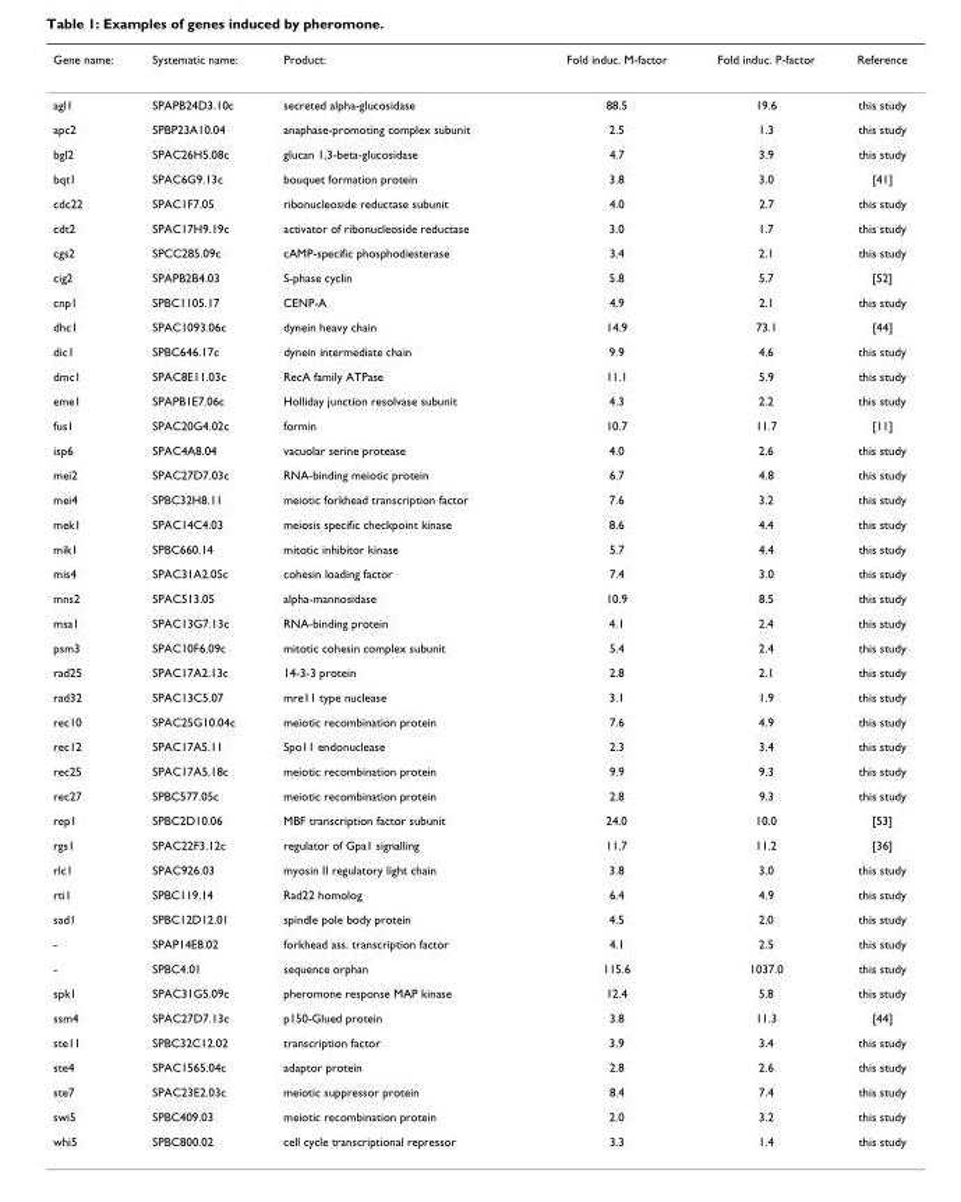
<table><thead><tr><td>Gene name:</td><td>Systematic name:</td><td>Product:</td><td>Fold induc. M-factor</td><td>Fold induc. P-factor</td><td>Reference</td></tr></thead><tbody><tr><td>agl1</td><td>SPAPB24D3.10c</td><td>secreted alpha-glucosidase</td><td>88.5</td><td>19.6</td><td>this study</td></tr><tr><td>apc2</td><td>SPBP23A10.04</td><td>anaphase-promoting complex subunit</td><td>2.5</td><td>1.3</td><td>this study</td></tr><tr><td>bgl2</td><td>SPAC26H5.08c</td><td>glucan 1,3-beta-glucosidase</td><td>4.7</td><td>3.9</td><td>this study</td></tr><tr><td>bqt1</td><td>SPAC6G9.13c</td><td>bouquet formation protein</td><td>3.8</td><td>3.0</td><td>[41]</td></tr><tr><td>cdc22</td><td>SPAC1F7.05</td><td>ribonucleoside reductase subunit</td><td>4.0</td><td>2.7</td><td>this study</td></tr><tr><td>cdt2</td><td>SPAC17H9.19c</td><td>activator of ribonucleoside reductase</td><td>3.0</td><td>1.7</td><td>this study</td></tr><tr><td>cgs2</td><td>SPCC285.09c</td><td>cAMP-specific phosphodiesterase</td><td>3.4</td><td>2.1</td><td>this study</td></tr><tr><td>cig2</td><td>SPAPB2B4.03</td><td>S-phase cyclin</td><td>5.8</td><td>5.7</td><td>[52]</td></tr><tr><td>cnp1</td><td>SPBC1105.17</td><td>CENP-A</td><td>4.9</td><td>2.1</td><td>this study</td></tr><tr><td>dhc1</td><td>SPAC1093.06c</td><td>dynein heavy chain</td><td>14.9</td><td>73.1</td><td>[44]</td></tr><tr><td>dic1</td><td>SPBC646.17c</td><td>dynein intermediate chain</td><td>9.9</td><td>4.6</td><td>this study</td></tr><tr><td>dmc1</td><td>SPAC8E11.03c</td><td>RecA family ATPase</td><td>11.1</td><td>5.9</td><td>this study</td></tr><tr><td>eme1</td><td>SPAPB1E7.06c</td><td>Holliday junction resolvase subunit</td><td>4.3</td><td>2.2</td><td>this study</td></tr><tr><td>fus1</td><td>SPAC20G4.02c</td><td>formin</td><td>10.7</td><td>11.7</td><td>[11]</td></tr><tr><td>isp6</td><td>SPAC4A8.04</td><td>vacuolar serine protease</td><td>4.0</td><td>2.6</td><td>this study</td></tr><tr><td>mei2</td><td>SPAC27D7.03c</td><td>RNA-binding meiotic protein</td><td>6.7</td><td>4.8</td><td>this study</td></tr><tr><td>mei4</td><td>SPBC32H8.11</td><td>meiotic forkhead transcription factor</td><td>7.6</td><td>3.2</td><td>this study</td></tr><tr><td>mek1</td><td>SPAC14C4.03</td><td>meiosis specific checkpoint kinase</td><td>8.6</td><td>4.4</td><td>this study</td></tr><tr><td>mik1</td><td>SPBC660.14</td><td>mitotic inhibitor kinase</td><td>5.7</td><td>4.4</td><td>this study</td></tr><tr><td>mis4</td><td>SPAC31A2.05c</td><td>cohesin loading factor</td><td>7.4</td><td>3.0</td><td>this study</td></tr><tr><td>mns2</td><td>SPAC513.05</td><td>alpha-mannosidase</td><td>10.9</td><td>8.5</td><td>this study</td></tr><tr><td>msa1</td><td>SPAC13G7.13c</td><td>RNA-binding protein</td><td>4.1</td><td>2.4</td><td>this study</td></tr><tr><td>psm3</td><td>SPAC10F6.09c</td><td>mitotic cohesin complex subunit</td><td>5.4</td><td>2.4</td><td>this study</td></tr><tr><td>rad25</td><td>SPAC17A2.13c</td><td>14-3-3 protein</td><td>2.8</td><td>2.1</td><td>this study</td></tr><tr><td>rad32</td><td>SPAC13C5.07</td><td>mre11 type nuclease</td><td>3.1</td><td>1.9</td><td>this study</td></tr><tr><td>rec10</td><td>SPAC25G10.04c</td><td>meiotic recombination protein</td><td>7.6</td><td>4.9</td><td>this study</td></tr><tr><td>rec12</td><td>SPAC17A5.11</td><td>Spo11 endonuclease</td><td>2.3</td><td>3.4</td><td>this study</td></tr><tr><td>rec25</td><td>SPAC17A5.18c</td><td>meiotic recombination protein</td><td>9.9</td><td>9.3</td><td>this study</td></tr><tr><td>rec27</td><td>SPBC577.05c</td><td>meiotic recombination protein</td><td>2.8</td><td>9.3</td><td>this study</td></tr><tr><td>rep1</td><td>SPBC2D10.06</td><td>MBF transcription factor subunit</td><td>24.0</td><td>10.0</td><td>[53]</td></tr><tr><td>rgs1</td><td>SPAC22F3.12c</td><td>regulator of Gpa1 signalling</td><td>11.7</td><td>11.2</td><td>[36]</td></tr><tr><td>rlc1</td><td>SPAC926.03</td><td>myosin II regulatory light chain</td><td>3.8</td><td>3.0</td><td>this study</td></tr><tr><td>rti1</td><td>SPBC119.14</td><td>Rad22 homolog</td><td>6.4</td><td>4.9</td><td>this study</td></tr><tr><td>sad1</td><td>SPBC12D12.01</td><td>spindle pole body protein</td><td>4.5</td><td>2.0</td><td>this study</td></tr><tr><td>-</td><td>SPAP14E8.02</td><td>forkhead ass. transcription factor</td><td>4.1</td><td>2.5</td><td>this study</td></tr><tr><td>-</td><td>SPBC4.01</td><td>sequence orphan</td><td>115.6</td><td>1037.0</td><td>this study</td></tr><tr><td>spk1</td><td>SPAC31G5.09c</td><td>pheromone response MAP kinase</td><td>12.4</td><td>5.8</td><td>this study</td></tr><tr><td>ssm4</td><td>SPAC27D7.13c</td><td>p150-Glued protein</td><td>3.8</td><td>11.3</td><td>[44]</td></tr><tr><td>ste11</td><td>SPBC32C12.02</td><td>transcription factor</td><td>3.9</td><td>3.4</td><td>this study</td></tr><tr><td>ste4</td><td>SPAC1565.04c</td><td>adaptor protein</td><td>2.8</td><td>2.6</td><td>this study</td></tr><tr><td>ste7</td><td>SPAC23E2.03c</td><td>meiotic suppressor protein</td><td>8.4</td><td>7.4</td><td>this study</td></tr><tr><td>swi5</td><td>SPBC409.03</td><td>meiotic recombination protein</td><td>2.0</td><td>3.2</td><td>this study</td></tr><tr><td>whi5</td><td>SPBC800.02</td><td>cell cycle transcriptional repressor</td><td>3.3</td><td>1.4</td><td>this study</td></tr></tbody></table>